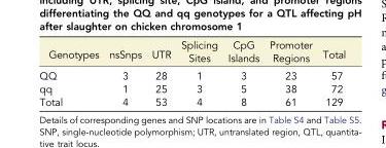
<table><thead><tr><td>Genotypes</td><td>nsSnps</td><td>UTR</td><td>Splicing Sites</td><td>CpG Islands</td><td>Promoter Regions</td><td>Total</td></tr></thead><tbody><tr><td>QQ</td><td>3</td><td>28</td><td>1</td><td>3</td><td>23</td><td>57</td></tr><tr><td>qq</td><td>1</td><td>25</td><td>3</td><td>5</td><td>38</td><td>72</td></tr><tr><td>Total</td><td>4</td><td>53</td><td>4</td><td>8</td><td>61</td><td>129</td></tr></tbody></table>